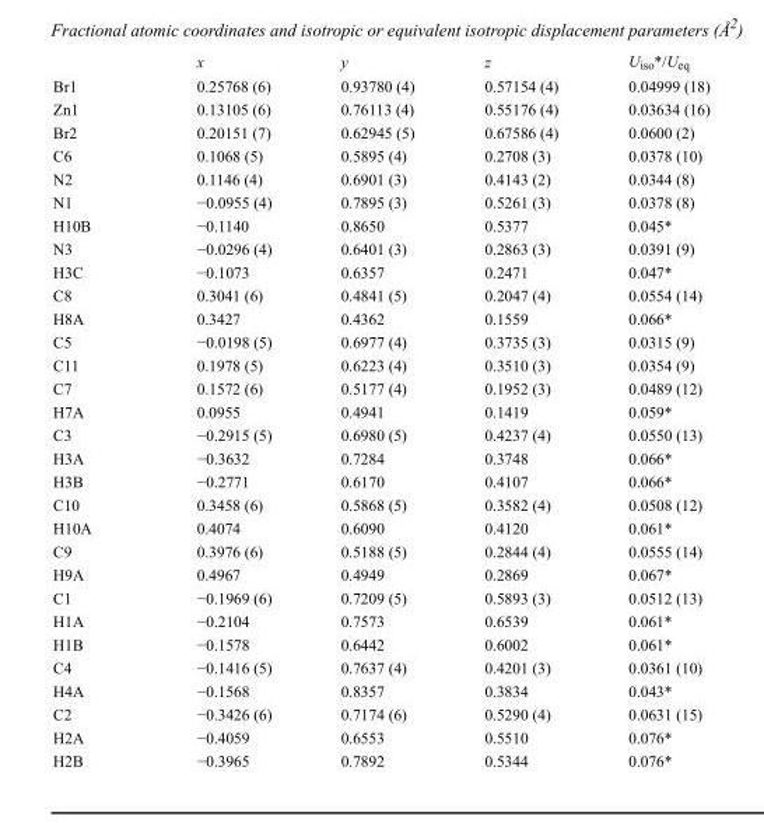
<table><thead><tr><td></td><td>x</td><td>y</td><td>z</td><td>U<sub>iso</sub>*/U<sub>eq</sub></td></tr></thead><tbody><tr><td>Br1</td><td>0.25768 (6)</td><td>0.93780 (4)</td><td>0.57154 (4)</td><td>0.04999 (18)</td></tr><tr><td>Zn1</td><td>0.13105 (6)</td><td>0.76113 (4)</td><td>0.55176 (4)</td><td>0.03634 (16)</td></tr><tr><td>Br2</td><td>0.20151 (7)</td><td>0.62945 (5)</td><td>0.67586 (4)</td><td>0.0600 (2)</td></tr><tr><td>C6</td><td>0.1068 (5)</td><td>0.5895 (4)</td><td>0.2708 (3)</td><td>0.0378 (10)</td></tr><tr><td>N2</td><td>0.1146 (4)</td><td>0.6901 (3)</td><td>0.4143 (2)</td><td>0.0344 (8)</td></tr><tr><td>N1</td><td>−0.0955 (4)</td><td>0.7895 (3)</td><td>0.5261 (3)</td><td>0.0378 (8)</td></tr><tr><td>H10B</td><td>−0.1140</td><td>0.8650</td><td>0.5377</td><td>0.045*</td></tr><tr><td>N3</td><td>−0.0296 (4)</td><td>0.6401 (3)</td><td>0.2863 (3)</td><td>0.0391 (9)</td></tr><tr><td>H3C</td><td>−0.1073</td><td>0.6357</td><td>0.2471</td><td>0.047*</td></tr><tr><td>C8</td><td>0.3041 (6)</td><td>0.4841 (5)</td><td>0.2047 (4)</td><td>0.0554 (14)</td></tr><tr><td>H8A</td><td>0.3427</td><td>0.4362</td><td>0.1559</td><td>0.066*</td></tr><tr><td>C5</td><td>−0.0198 (5)</td><td>0.6977 (4)</td><td>0.3735 (3)</td><td>0.0315 (9)</td></tr><tr><td>C11</td><td>0.1978 (5)</td><td>0.6223 (4)</td><td>0.3510 (3)</td><td>0.0354 (9)</td></tr><tr><td>C7</td><td>0.1572 (6)</td><td>0.5177 (4)</td><td>0.1952 (3)</td><td>0.0489 (12)</td></tr><tr><td>H7A</td><td>0.0955</td><td>0.4941</td><td>0.1419</td><td>0.059*</td></tr><tr><td>C3</td><td>−0.2915 (5)</td><td>0.6980 (5)</td><td>0.4237 (4)</td><td>0.0550 (13)</td></tr><tr><td>H3A</td><td>−0.3632</td><td>0.7284</td><td>0.3748</td><td>0.066*</td></tr><tr><td>H3B</td><td>−0.2771</td><td>0.6170</td><td>0.4107</td><td>0.066*</td></tr><tr><td>C10</td><td>0.3458 (6)</td><td>0.5868 (5)</td><td>0.3582 (4)</td><td>0.0508 (12)</td></tr><tr><td>H10A</td><td>0.4074</td><td>0.6090</td><td>0.4120</td><td>0.061*</td></tr><tr><td>C9</td><td>0.3976 (6)</td><td>0.5188 (5)</td><td>0.2844 (4)</td><td>0.0555 (14)</td></tr><tr><td>H9A</td><td>0.4967</td><td>0.4949</td><td>0.2869</td><td>0.067*</td></tr><tr><td>C1</td><td>−0.1969 (6)</td><td>0.7209 (5)</td><td>0.5893 (3)</td><td>0.0512 (13)</td></tr><tr><td>H1A</td><td>−0.2104</td><td>0.7573</td><td>0.6539</td><td>0.061*</td></tr><tr><td>H1B</td><td>−0.1578</td><td>0.6442</td><td>0.6002</td><td>0.061*</td></tr><tr><td>C4</td><td>−0.1416 (5)</td><td>0.7637 (4)</td><td>0.4201 (3)</td><td>0.0361 (10)</td></tr><tr><td>H4A</td><td>−0.1568</td><td>0.8357</td><td>0.3834</td><td>0.043*</td></tr><tr><td>C2</td><td>−0.3426 (6)</td><td>0.7174 (6)</td><td>0.5290 (4)</td><td>0.0631 (15)</td></tr><tr><td>H2A</td><td>−0.4059</td><td>0.6553</td><td>0.5510</td><td>0.076*</td></tr><tr><td>H2B</td><td>−0.3965</td><td>0.7892</td><td>0.5344</td><td>0.076*</td></tr></tbody></table>